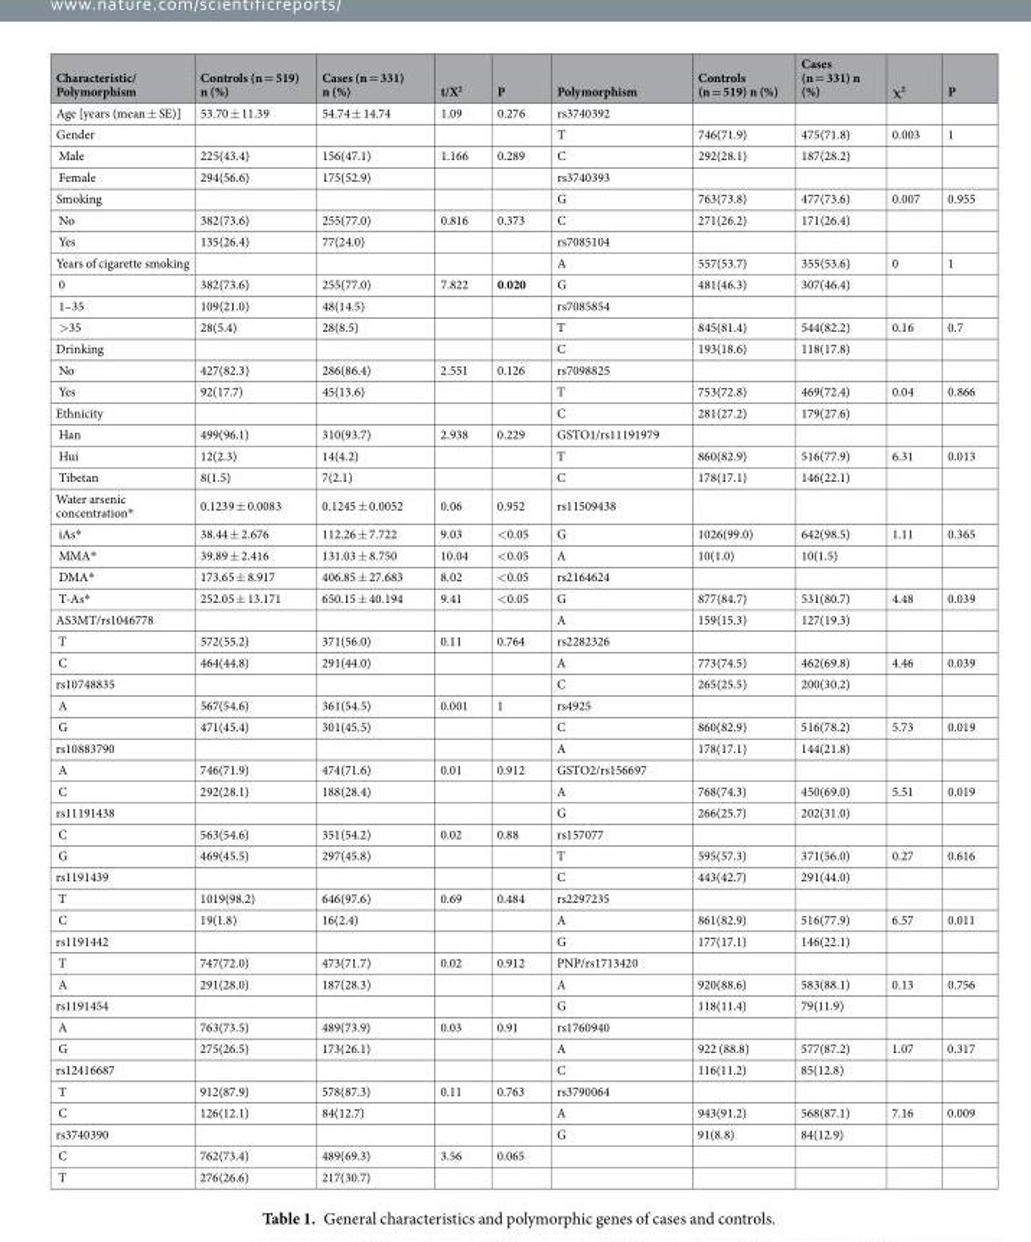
<table><thead><tr><td>Characteristic/ Polymorphism</td><td>Controls (n = 519) n (%)</td><td>Cases (n = 331) n (%)</td><td>t/X<sup>2</sup></td><td>P</td><td>Polymorphism</td><td>Controls (n = 519) n (%)</td><td>Cases (n = 331) n (%)</td><td>χ<sup>2</sup></td><td>P</td></tr></thead><tbody><tr><td>Age [years (mean ± SE)]</td><td>53.70 ± 11.39</td><td>54.74 ± 14.74</td><td>1.09</td><td>0.276</td><td>rs3740392</td><td></td><td></td><td></td><td></td></tr><tr><td>Gender</td><td></td><td></td><td></td><td></td><td>T</td><td>746(71.9)</td><td>475(71.8)</td><td>0.003</td><td>1</td></tr><tr><td>Male</td><td>225(43.4)</td><td>156(47.1)</td><td>1.166</td><td>0.289</td><td>C</td><td>292(28.1)</td><td>187(28.2)</td><td></td><td></td></tr><tr><td>Female</td><td>294(56.6)</td><td>175(52.9)</td><td></td><td></td><td>rs3740393</td><td></td><td></td><td></td><td></td></tr><tr><td>Smoking</td><td></td><td></td><td></td><td></td><td>G</td><td>763(73.8)</td><td>477(73.6)</td><td>0.007</td><td>0.955</td></tr><tr><td>No</td><td>382(73.6)</td><td>255(77.0)</td><td>0.816</td><td>0.373</td><td>C</td><td>271(26.2)</td><td>171(26.4)</td><td></td><td></td></tr><tr><td>Yes</td><td>135(26.4)</td><td>77(24.0)</td><td></td><td></td><td>rs7085104</td><td></td><td></td><td></td><td></td></tr><tr><td>Years of cigarette smoking</td><td></td><td></td><td></td><td></td><td>A</td><td>557(53.7)</td><td>355(53.6)</td><td>0</td><td>1</td></tr><tr><td>0</td><td>382(73.6)</td><td>255(77.0)</td><td>7.822</td><td>0.020</td><td>G</td><td>481(46.3)</td><td>307(46.4)</td><td></td><td></td></tr><tr><td>1–35</td><td>109(21.0)</td><td>48(14.5)</td><td></td><td></td><td>rs7085854</td><td></td><td></td><td></td><td></td></tr><tr><td>&gt;35</td><td>28(5.4)</td><td>28(8.5)</td><td></td><td></td><td>T</td><td>845(81.4)</td><td>544(82.2)</td><td>0.16</td><td>0.7</td></tr><tr><td>Drinking</td><td></td><td></td><td></td><td></td><td>C</td><td>193(18.6)</td><td>118(17.8)</td><td></td><td></td></tr><tr><td>No</td><td>427(82.3)</td><td>286(86.4)</td><td>2.551</td><td>0.126</td><td>rs7098825</td><td></td><td></td><td></td><td></td></tr><tr><td>Yes</td><td>92(17.7)</td><td>45(13.6)</td><td></td><td></td><td>T</td><td>753(72.8)</td><td>469(72.4)</td><td>0.04</td><td>0.866</td></tr><tr><td>Ethnicity</td><td></td><td></td><td></td><td></td><td>C</td><td>281(27.2)</td><td>179(27.6)</td><td></td><td></td></tr><tr><td>Han</td><td>499(96.1)</td><td>310(93.7)</td><td>2.938</td><td>0.229</td><td>GSTO1/rs11191979</td><td></td><td></td><td></td><td></td></tr><tr><td>Hui</td><td>12(2.3)</td><td>14(4.2)</td><td></td><td></td><td>T</td><td>860(82.9)</td><td>516(77.9)</td><td>6.31</td><td>0.013</td></tr><tr><td>Tibetan</td><td>8(1.5)</td><td>7(2.1)</td><td></td><td></td><td>C</td><td>178(17.1)</td><td>146(22.1)</td><td></td><td></td></tr><tr><td>Water arsenic concentration*</td><td>0.1239 ± 0.0083</td><td>0.1245 ± 0.0052</td><td>0.06</td><td>0.952</td><td>rs11509438</td><td></td><td></td><td></td><td></td></tr><tr><td>iAs*</td><td>38.44 ± 2.676</td><td>112.26 ± 7.722</td><td>9.03</td><td>&lt;0.05</td><td>G</td><td>1026(99.0)</td><td>642(98.5)</td><td>1.11</td><td>0.365</td></tr><tr><td>MMA*</td><td>39.89 ± 2.416</td><td>131.03 ± 8.750</td><td>10.04</td><td>&lt;0.05</td><td>A</td><td>10(1.0)</td><td>10(1.5)</td><td></td><td></td></tr><tr><td>DMA*</td><td>173.65 ± 8.917</td><td>406.85 ± 27.683</td><td>8.02</td><td>&lt;0.05</td><td>rs2164624</td><td></td><td></td><td></td><td></td></tr><tr><td>T-As*</td><td>252.05 ± 13.171</td><td>650.15 ± 40.194</td><td>9.41</td><td>&lt;0.05</td><td>G</td><td>877(84.7)</td><td>531(80.7)</td><td>4.48</td><td>0.039</td></tr><tr><td>AS3MT/rs1046778</td><td></td><td></td><td></td><td></td><td>A</td><td>159(15.3)</td><td>127(19.3)</td><td></td><td></td></tr><tr><td>T</td><td>572(55.2)</td><td>371(56.0)</td><td>0.11</td><td>0.764</td><td>rs2282326</td><td></td><td></td><td></td><td></td></tr><tr><td>C</td><td>464(44.8)</td><td>291(44.0)</td><td></td><td></td><td>A</td><td>773(74.5)</td><td>462(69.8)</td><td>4.46</td><td>0.039</td></tr><tr><td>rs10748835</td><td></td><td></td><td></td><td></td><td>C</td><td>265(25.5)</td><td>200(30.2)</td><td></td><td></td></tr><tr><td>A</td><td>567(54.6)</td><td>361(54.5)</td><td>0.001</td><td>1</td><td>rs4925</td><td></td><td></td><td></td><td></td></tr><tr><td>G</td><td>471(45.4)</td><td>301(45.5)</td><td></td><td></td><td>C</td><td>860(82.9)</td><td>516(78.2)</td><td>5.73</td><td>0.019</td></tr><tr><td>rs10883790</td><td></td><td></td><td></td><td></td><td>A</td><td>178(17.1)</td><td>144(21.8)</td><td></td><td></td></tr><tr><td>A</td><td>746(71.9)</td><td>474(71.6)</td><td>0.01</td><td>0.912</td><td>GSTO2/rs156697</td><td></td><td></td><td></td><td></td></tr><tr><td>C</td><td>292(28.1)</td><td>188(28.4)</td><td></td><td></td><td>A</td><td>768(74.3)</td><td>450(69.0)</td><td>5.51</td><td>0.019</td></tr><tr><td>rs11191438</td><td></td><td></td><td></td><td></td><td>G</td><td>266(25.7)</td><td>202(31.0)</td><td></td><td></td></tr><tr><td>C</td><td>563(54.6)</td><td>351(54.2)</td><td>0.02</td><td>0.88</td><td>rs157077</td><td></td><td></td><td></td><td></td></tr><tr><td>G</td><td>469(45.5)</td><td>297(45.8)</td><td></td><td></td><td>T</td><td>595(57.3)</td><td>371(56.0)</td><td>0.27</td><td>0.616</td></tr><tr><td>rs1191439</td><td></td><td></td><td></td><td></td><td>C</td><td>443(42.7)</td><td>291(44.0)</td><td></td><td></td></tr><tr><td>T</td><td>1019(98.2)</td><td>646(97.6)</td><td>0.69</td><td>0.484</td><td>rs2297235</td><td></td><td></td><td></td><td></td></tr><tr><td>C</td><td>19(1.8)</td><td>16(2.4)</td><td></td><td></td><td>A</td><td>861(82.9)</td><td>516(77.9)</td><td>6.57</td><td>0.011</td></tr><tr><td>rs1191442</td><td></td><td></td><td></td><td></td><td>G</td><td>177(17.1)</td><td>146(22.1)</td><td></td><td></td></tr><tr><td>T</td><td>747(72.0)</td><td>473(71.7)</td><td>0.02</td><td>0.912</td><td>PNP/rs1713420</td><td></td><td></td><td></td><td></td></tr><tr><td>A</td><td>291(28.0)</td><td>187(28.3)</td><td></td><td></td><td>A</td><td>920(88.6)</td><td>583(88.1)</td><td>0.13</td><td>0.756</td></tr><tr><td>rs1191454</td><td></td><td></td><td></td><td></td><td>G</td><td>118(11.4)</td><td>79(11.9)</td><td></td><td></td></tr><tr><td>A</td><td>763(73.5)</td><td>489(73.9)</td><td>0.03</td><td>0.91</td><td>rs1760940</td><td></td><td></td><td></td><td></td></tr><tr><td>G</td><td>275(26.5)</td><td>173(26.1)</td><td></td><td></td><td>A</td><td>922 (88.8)</td><td>577(87.2)</td><td>1.07</td><td>0.317</td></tr><tr><td>rs12416687</td><td></td><td></td><td></td><td></td><td>C</td><td>116(11.2)</td><td>85(12.8)</td><td></td><td></td></tr><tr><td>T</td><td>912(87.9)</td><td>578(87.3)</td><td>0.11</td><td>0.763</td><td>rs3790064</td><td></td><td></td><td></td><td></td></tr><tr><td>C</td><td>126(12.1)</td><td>84(12.7)</td><td></td><td></td><td>A</td><td>943(91.2)</td><td>568(87.1)</td><td>7.16</td><td>0.009</td></tr><tr><td>rs3740390</td><td></td><td></td><td></td><td></td><td>G</td><td>91(8.8)</td><td>84(12.9)</td><td></td><td></td></tr><tr><td>C</td><td>762(73.4)</td><td>489(69.3)</td><td>3.56</td><td>0.065</td><td></td><td></td><td></td><td></td><td></td></tr><tr><td>T</td><td>276(26.6)</td><td>217(30.7)</td><td></td><td></td><td></td><td></td><td></td><td></td><td></td></tr></tbody></table>